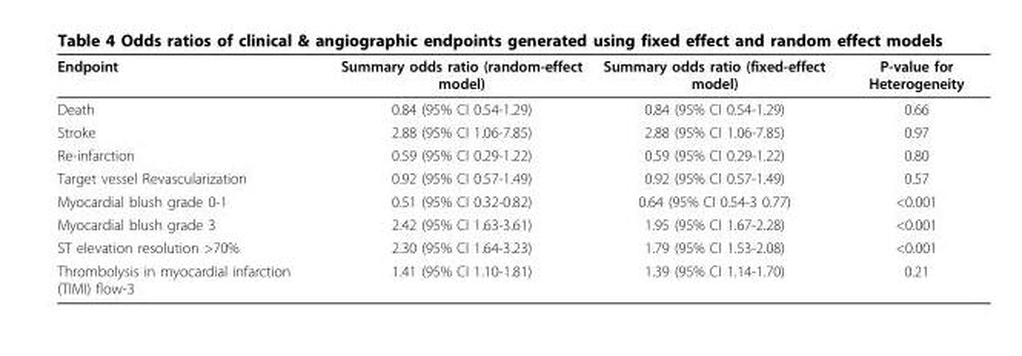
<table><thead><tr><td>Endpoint</td><td>Summary odds ratio (random-effect model)</td><td>Summary odds ratio (fixed-effect model)</td><td>P-value for Heterogeneity</td></tr></thead><tbody><tr><td>Death</td><td>0.84 (95% CI 0.54-1.29)</td><td>0.84 (95% CI 0.54-1.29)</td><td>0.66</td></tr><tr><td>Stroke</td><td>2.88 (95% CI 1.06-7.85)</td><td>2.88 (95% CI 1.06-7.85)</td><td>0.97</td></tr><tr><td>Re-infarction</td><td>0.59 (95% CI 0.29-1.22)</td><td>0.59 (95% CI 0.29-1.22)</td><td>0.80</td></tr><tr><td>Target vessel Revascularization</td><td>0.92 (95% CI 0.57-1.49)</td><td>0.92 (95% CI 0.57-1.49)</td><td>0.57</td></tr><tr><td>Myocardial blush grade 0-1</td><td>0.51 (95% CI 0.32-0.82)</td><td>0.64 (95% CI 0.54-3 0.77)</td><td>&lt;0.001</td></tr><tr><td>Myocardial blush grade 3</td><td>2.42 (95% CI 1.63-3.61)</td><td>1.95 (95% CI 1.67-2.28)</td><td>&lt;0.001</td></tr><tr><td>ST elevation resolution &gt;70%</td><td>2.30 (95% CI 1.64-3.23)</td><td>1.79 (95% CI 1.53-2.08)</td><td>&lt;0.001</td></tr><tr><td>Thrombolysis in myocardial infarction (TIMI) flow-3</td><td>1.41 (95% CI 1.10-1.81)</td><td>1.39 (95% CI 1.14-1.70)</td><td>0.21</td></tr></tbody></table>